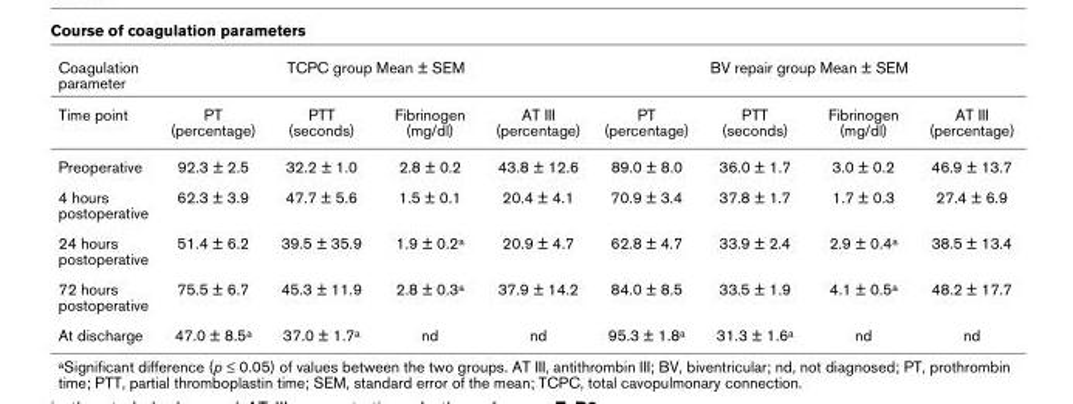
<table><thead><tr><td rowspan="2">Coagulation parameter Time point</td><td colspan="4">TCPC group Mean ± SEM</td><td colspan="4">BV repair group Mean ± SEM</td></tr><tr><td>PT (percentage)</td><td>PTT (seconds)</td><td>Fibrinogen (mg/dl)</td><td>AT III (percentage)</td><td>PT (percentage)</td><td>PTT (seconds)</td><td>Fibrinogen (mg/dl)</td><td>AT III (percentage)</td></tr></thead><tbody><tr><td>Preoperative</td><td>92.3 ± 2.5</td><td>32.2 ± 1.0</td><td>2.8 ± 0.2</td><td>43.8 ± 12.6</td><td>89.0 ± 8.0</td><td>36.0 ± 1.7</td><td>3.0 ± 0.2</td><td>46.9 ± 13.7</td></tr><tr><td>4 hours postoperative</td><td>62.3 ± 3.9</td><td>47.7 ± 5.6</td><td>1.5 ± 0.1</td><td>20.4 ± 4.1</td><td>70.9 ± 3.4</td><td>37.8 ± 1.7</td><td>1.7 ± 0.3</td><td>27.4 ± 6.9</td></tr><tr><td>24 hours postoperative</td><td>51.4 ± 6.2</td><td>39.5 ± 35.9</td><td>1.9 ± 0.2a</td><td>20.9 ± 4.7</td><td>62.8 ± 4.7</td><td>33.9 ± 2.4</td><td>2.9 ± 0.4a</td><td>38.5 ± 13.4</td></tr><tr><td>72 hours postoperative</td><td>75.5 ± 6.7</td><td>45.3 ± 11.9</td><td>2.8 ± 0.3a</td><td>37.9 ± 14.2</td><td>84.0 ± 8.5</td><td>33.5 ± 1.9</td><td>4.1 ± 0.5a</td><td>48.2 ± 17.7</td></tr><tr><td>At discharge</td><td>47.0 ± 8.5a</td><td>37.0 ± 1.7a</td><td>nd</td><td>nd</td><td>95.3 ± 1.8a</td><td>31.3 ± 1.6a</td><td>nd</td><td>nd</td></tr></tbody></table>